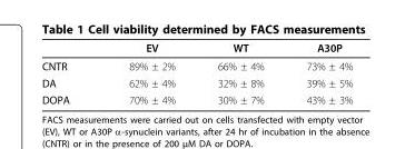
<table><thead><tr><td></td><td>EV</td><td>WT</td><td>A30P</td></tr></thead><tbody><tr><td>CNTR</td><td>89% ± 2%</td><td>66% ± 4%</td><td>73% ± 4%</td></tr><tr><td>DA</td><td>62% ± 4%</td><td>32% ± 8%</td><td>39% ± 5%</td></tr><tr><td>DOPA</td><td>70% ± 4%</td><td>30% ± 7%</td><td>43% ± 3%</td></tr></tbody></table>